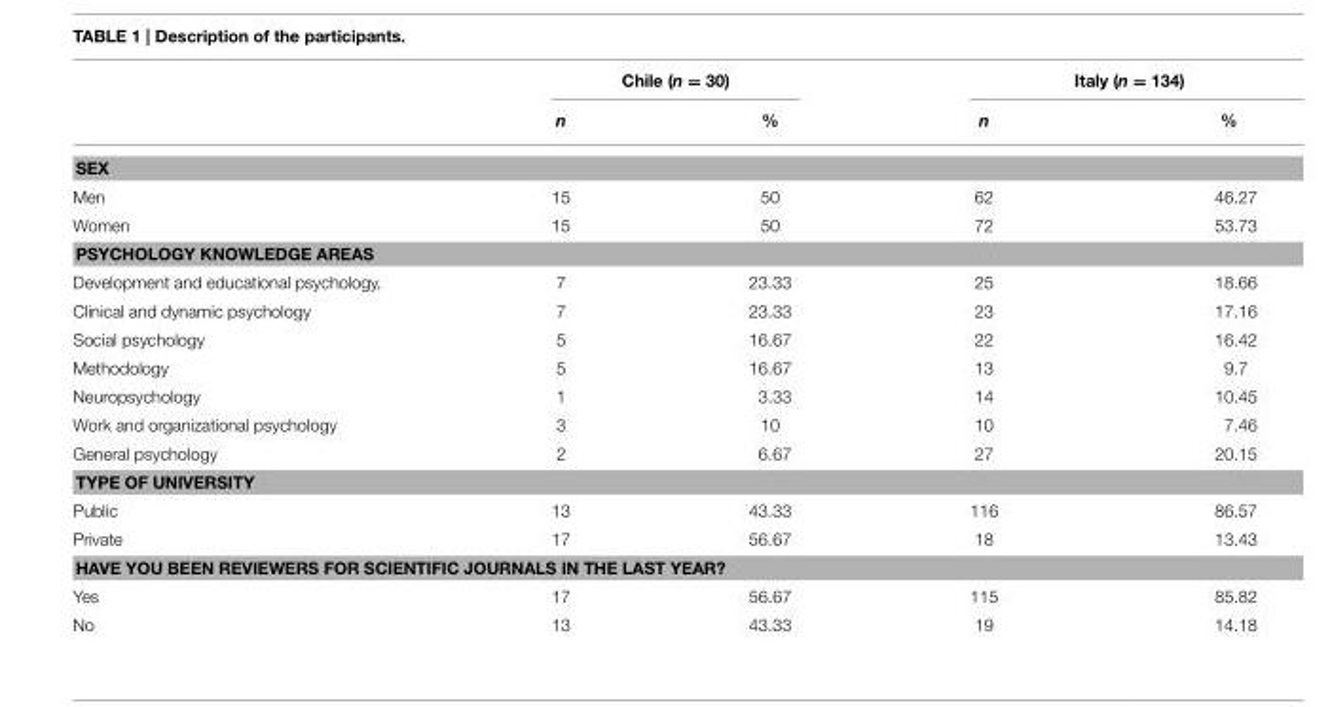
<table><thead><tr><td rowspan="2"></td><td colspan="2">Chile (n = 30)</td><td colspan="2">Italy (n = 134)</td></tr><tr><td>n</td><td>%</td><td>n</td><td>%</td></tr></thead><tbody><tr><td colspan="5">SEX</td></tr><tr><td>Men</td><td>15</td><td>50</td><td>62</td><td>46.27</td></tr><tr><td>Women</td><td>15</td><td>50</td><td>72</td><td>53.73</td></tr><tr><td colspan="5">PSYCHOLOGY KNOWLEDGE AREAS</td></tr><tr><td>Development and educational psychology,</td><td>7</td><td>23.33</td><td>25</td><td>18.66</td></tr><tr><td>Clinical and dynamic psychology</td><td>7</td><td>23.33</td><td>23</td><td>17.16</td></tr><tr><td>Social psychology</td><td>5</td><td>16.67</td><td>22</td><td>16.42</td></tr><tr><td>Methodology</td><td>5</td><td>16.67</td><td>13</td><td>9.7</td></tr><tr><td>Neuropsychology</td><td>1</td><td>3.33</td><td>14</td><td>10.45</td></tr><tr><td>Work and organizational psychology</td><td>3</td><td>10</td><td>10</td><td>7.46</td></tr><tr><td>General psychology</td><td>2</td><td>6.67</td><td>27</td><td>20.15</td></tr><tr><td colspan="5">TYPE OF UNIVERSITY</td></tr><tr><td>Public</td><td>13</td><td>43.33</td><td>116</td><td>86.57</td></tr><tr><td>Private</td><td>17</td><td>56.67</td><td>18</td><td>13.43</td></tr><tr><td colspan="5">HAVE YOU BEEN REVIEWERS FOR SCIENTIFIC JOURNALS IN THE LAST YEAR?</td></tr><tr><td>Yes</td><td>17</td><td>56.67</td><td>115</td><td>85.82</td></tr><tr><td>No</td><td>13</td><td>43.33</td><td>19</td><td>14.18</td></tr></tbody></table>